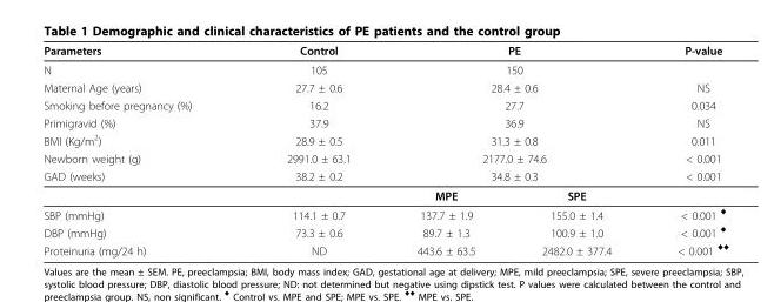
<table><thead><tr><td>Parameters</td><td>Control</td><td colspan="2">PE</td><td>P-value</td></tr></thead><tbody><tr><td>N</td><td>105</td><td colspan="2">150</td><td></td></tr><tr><td>Maternal Age (years)</td><td>27.7 ± 0.6</td><td colspan="2">28.4 ± 0.6</td><td>NS</td></tr><tr><td>Smoking before pregnancy (%)</td><td>16.2</td><td colspan="2">27.7</td><td>0.034</td></tr><tr><td>Primigravid (%)</td><td>37.9</td><td colspan="2">36.9</td><td>NS</td></tr><tr><td>BMI (Kg/m<sup>2</sup>)</td><td>28.9 ± 0.5</td><td colspan="2">31.3 ± 0.8</td><td>0.011</td></tr><tr><td>Newborn weight (g)</td><td>2991.0 ± 63.1</td><td colspan="2">2177.0 ± 74.6</td><td>&lt; 0.001</td></tr><tr><td rowspan="2">GAD (weeks)</td><td>38.2 ± 0.2</td><td colspan="2">34.8 ± 0.3</td><td>&lt; 0.001</td></tr><tr><td></td><td>MPE</td><td>SPE</td><td></td></tr><tr><td>SBP (mmHg)</td><td>114.1 ± 0.7</td><td>137.7 ± 1.9</td><td>155.0 ± 1.4</td><td>&lt; 0.001 <sup>♦</sup></td></tr><tr><td>DBP (mmHg)</td><td>73.3 ± 0.6</td><td>89.7 ± 1.3</td><td>100.9 ± 1.0</td><td>&lt; 0.001 <sup>♦</sup></td></tr><tr><td>Proteinuria (mg/24 h)</td><td>ND</td><td>443.6 ± 63.5</td><td>2482.0 ± 377.4</td><td>&lt; 0.001 <sup>♦♦</sup></td></tr></tbody></table>